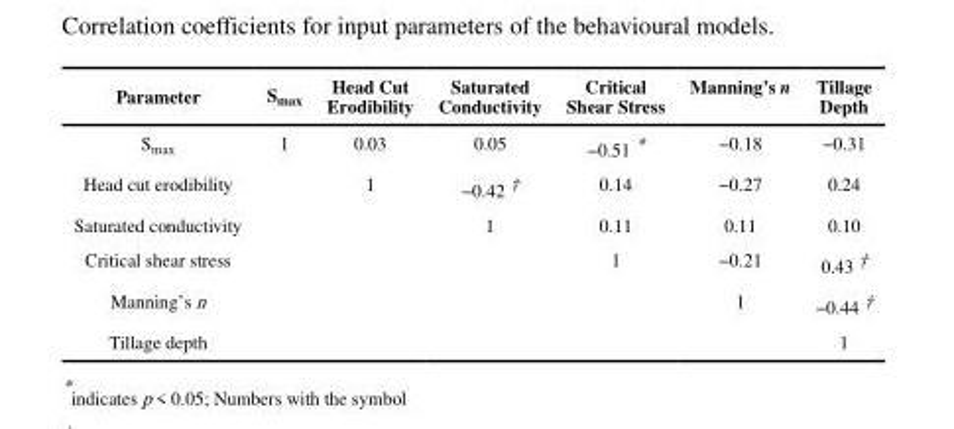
<table><thead><tr><td>Parameter</td><td>S<sub>max</sub></td><td>Head Cut Erodibility</td><td>Saturated Conductivity</td><td>Critical Shear Stress</td><td>Manning’s n</td><td>Tillage Depth</td></tr></thead><tbody><tr><td>S<sub>max</sub></td><td>1</td><td>0.03</td><td>0.05</td><td>−0.51 *</td><td>−0.18</td><td>−0.31</td></tr><tr><td>Head cut erodibility</td><td></td><td>1</td><td>−0.42 †</td><td>0.14</td><td>−0.27</td><td>0.24</td></tr><tr><td>Saturated conductivity</td><td></td><td></td><td>1</td><td>0.11</td><td>0.11</td><td>0.10</td></tr><tr><td>Critical shear stress</td><td></td><td></td><td></td><td>1</td><td>−0.21</td><td>0.43 †</td></tr><tr><td>Manning’s n</td><td></td><td></td><td></td><td></td><td>1</td><td>−0.44 †</td></tr><tr><td>Tillage depth</td><td></td><td></td><td></td><td></td><td></td><td>1</td></tr></tbody></table>